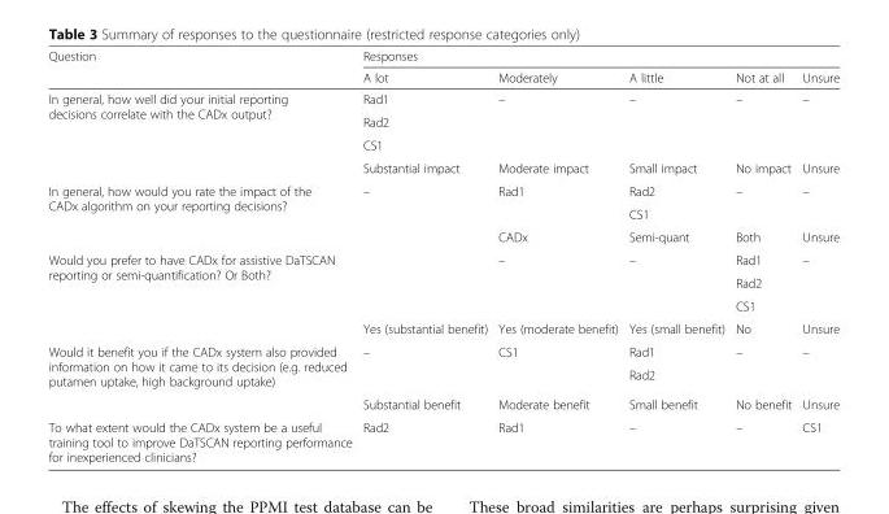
<table><thead><tr><td rowspan="2">Question</td><td colspan="5">Responses</td></tr><tr><td>A lot</td><td>Moderately</td><td>A little</td><td>Not at all</td><td>Unsure</td></tr></thead><tbody><tr><td rowspan="4">In general, how well did your initial reporting decisions correlate with the CADx output?</td><td>Rad1</td><td rowspan="3">–</td><td rowspan="3">–</td><td rowspan="3">–</td><td rowspan="3">–</td></tr><tr><td>Rad2</td></tr><tr><td>CS1</td></tr><tr><td>Substantial impact</td><td>Moderate impact</td><td>Small impact</td><td>No impact</td><td>Unsure</td></tr><tr><td rowspan="3">In general, how would you rate the impact of the CADx algorithm on your reporting decisions?</td><td rowspan="2">–</td><td rowspan="2">Rad1</td><td>Rad2</td><td rowspan="2">–</td><td rowspan="2">–</td></tr><tr><td>CS1</td></tr><tr><td></td><td>CADx</td><td>Semi-quant</td><td>Both</td><td>Unsure</td></tr><tr><td rowspan="4">Would you prefer to have CADx for assistive DaTSCAN reporting or semi-quantification? Or Both?</td><td rowspan="3"></td><td rowspan="3">–</td><td rowspan="3">–</td><td>Rad1</td><td rowspan="3">–</td></tr><tr><td>Rad2</td></tr><tr><td>CS1</td></tr><tr><td>Yes (substantial benefit)</td><td>Yes (moderate benefit)</td><td>Yes (small benefit)</td><td>No</td><td>Unsure</td></tr><tr><td rowspan="3">Would it benefit you if the CADx system also provided information on how it came to its decision (e.g. reduced putamen uptake, high background uptake)</td><td rowspan="2">–</td><td rowspan="2">CS1</td><td>Rad1</td><td rowspan="2">–</td><td rowspan="2">–</td></tr><tr><td>Rad2</td></tr><tr><td>Substantial benefit</td><td>Moderate benefit</td><td>Small benefit</td><td>No benefit</td><td>Unsure</td></tr><tr><td>To what extent would the CADx system be a useful training tool to improve DaTSCAN reporting performance for inexperienced clinicians?</td><td>Rad2</td><td>Rad1</td><td>–</td><td>–</td><td>CS1</td></tr></tbody></table>